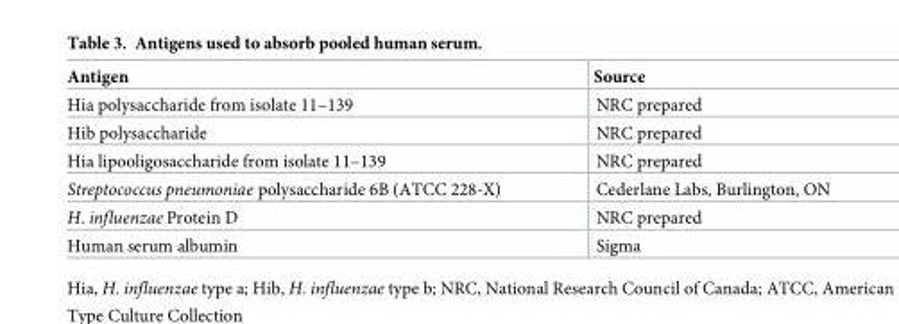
<table><thead><tr><td>Antigen</td><td>Source</td></tr></thead><tbody><tr><td>Hia polysaccharide from isolate 11–139</td><td>NRC prepared</td></tr><tr><td>Hib polysaccharide</td><td>NRC prepared</td></tr><tr><td>Hia lipooligosaccharide from isolate 11–139</td><td>NRC prepared</td></tr><tr><td>Streptococcus pneumoniae polysaccharide 6B (ATCC 228-X)</td><td>Cederlane Labs, Burlington, ON</td></tr><tr><td>H. influenzae Protein D</td><td>NRC prepared</td></tr><tr><td>Human serum albumin</td><td>Sigma</td></tr></tbody></table>